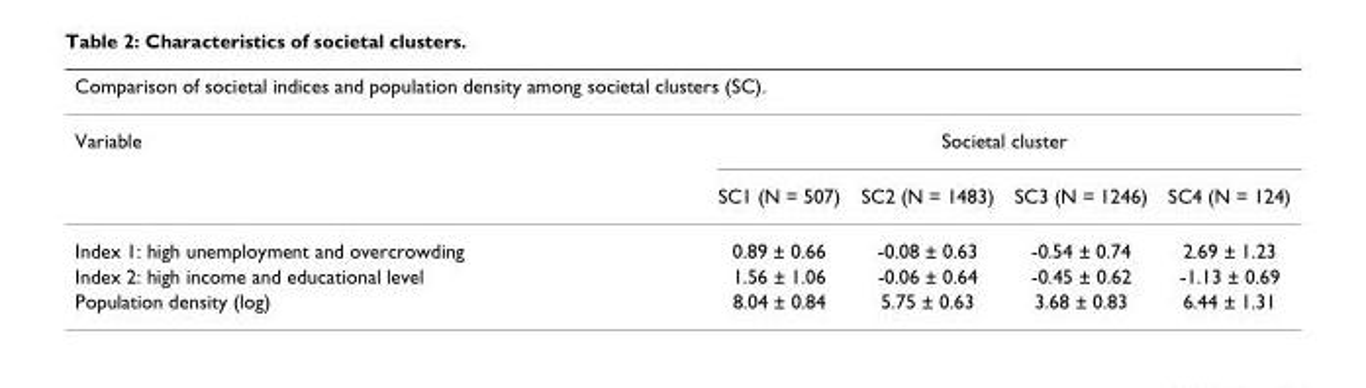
<table><thead><tr><td colspan="5">Comparison of societal indices and population density among societal clusters (SC).</td></tr><tr><td rowspan="2">Variable</td><td colspan="4">Societal cluster</td></tr><tr><td>SC1 (N = 507)</td><td>SC2 (N = 1483)</td><td>SC3 (N = 1246)</td><td>SC4 (N = 124)</td></tr></thead><tbody><tr><td>Index 1: high unemployment and overcrowding</td><td>0.89 ± 0.66</td><td>-0.08 ± 0.63</td><td>-0.54 ± 0.74</td><td>2.69 ± 1.23</td></tr><tr><td>Index 2: high income and educational level</td><td>1.56 ± 1.06</td><td>-0.06 ± 0.64</td><td>-0.45 ± 0.62</td><td>-1.13 ± 0.69</td></tr><tr><td>Population density (log)</td><td>8.04 ± 0.84</td><td>5.75 ± 0.63</td><td>3.68 ± 0.83</td><td>6.44 ± 1.31</td></tr></tbody></table>